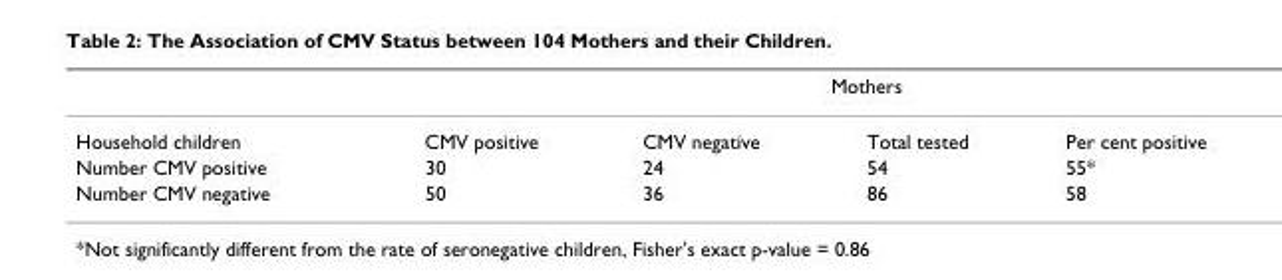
<table><thead><tr><td rowspan="2">Household children</td><td colspan="4">Mothers</td></tr><tr><td>CMV positive</td><td>CMV negative</td><td>Total tested</td><td>Per cent positive</td></tr></thead><tbody><tr><td>Number CMV positive</td><td>30</td><td>24</td><td>54</td><td>55*</td></tr><tr><td>Number CMV negative</td><td>50</td><td>36</td><td>86</td><td>58</td></tr></tbody></table>